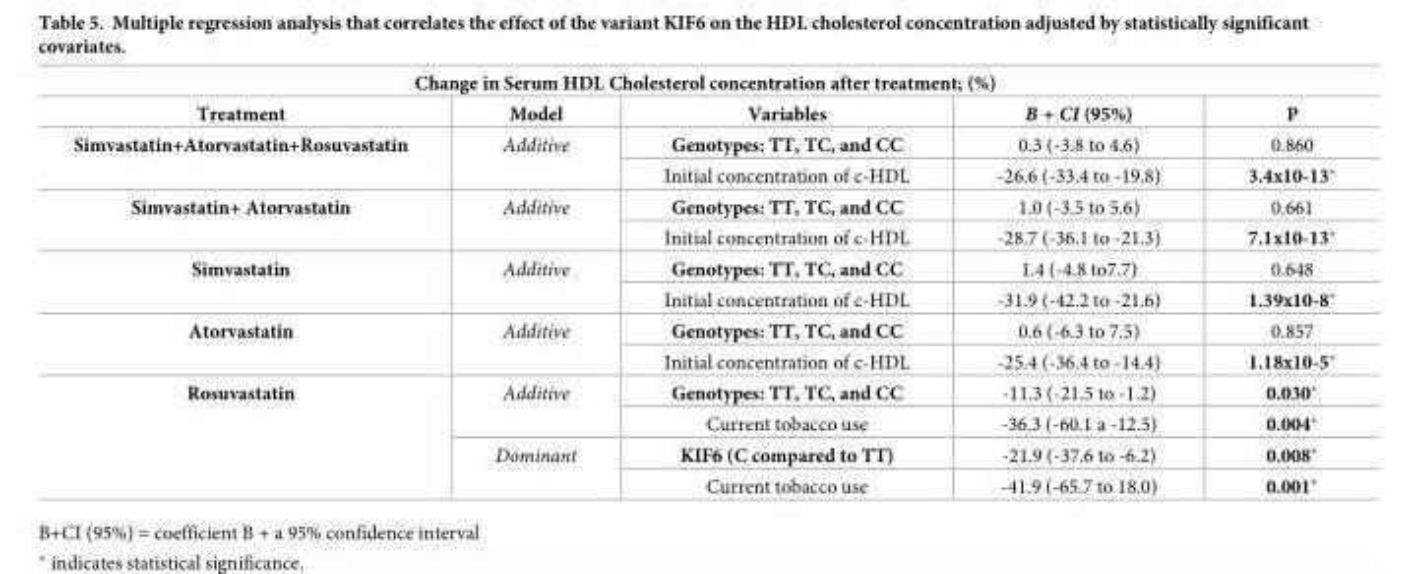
<table><thead><tr><td colspan="5">Change in Serum HDL Cholesterol concentration after treatment; (%)</td></tr><tr><td>Treatment</td><td>Model</td><td>Variables</td><td>B + CI (95%)</td><td>P</td></tr></thead><tbody><tr><td rowspan="2">Simvastatin+Atorvastatin+Rosuvastatin</td><td rowspan="2">Additive</td><td>Genotypes: TT, TC, and CC</td><td>0.3 (-3.8 to 4.6)</td><td>0.860</td></tr><tr><td>Initial concentration of c-HDL</td><td>-26.6 (-33.4 to -19.8)</td><td>3.4x10-13*</td></tr><tr><td rowspan="2">Simvastatin+ Atorvastatin</td><td rowspan="2">Additive</td><td>Genotypes: TT, TC, and CC</td><td>1.0 (-3.5 to 5.6)</td><td>0.661</td></tr><tr><td>Initial concentration of c-HDL</td><td>-28.7 (-36.1 to -21.3)</td><td>7.1x10-13*</td></tr><tr><td rowspan="2">Simvastatin</td><td rowspan="2">Additive</td><td>Genotypes: TT, TC, and CC</td><td>1.4 (-4.8 to7.7)</td><td>0.648</td></tr><tr><td>Initial concentration of c-HDL</td><td>-31.9 (-42.2 to -21.6)</td><td>1.39x10-8*</td></tr><tr><td rowspan="2">Atorvastatin</td><td rowspan="2">Additive</td><td>Genotypes: TT, TC, and CC</td><td>0.6 (-6.3 to 7.5)</td><td>0.857</td></tr><tr><td>Initial concentration of c-HDL</td><td>-25.4 (-36.4 to -14.4)</td><td>1.18x10-5*</td></tr><tr><td rowspan="4">Rosuvastatin</td><td rowspan="2">Additive</td><td>Genotypes: TT, TC, and CC</td><td>-11.3 (-21.5 to -1.2)</td><td>0.030*</td></tr><tr><td>Current tobacco use</td><td>-36.3 (-60.1 a -12.5)</td><td>0.004*</td></tr><tr><td rowspan="2">Dominant</td><td>KIF6 (C compared to TT)</td><td>-21.9 (-37.6 to -6.2)</td><td>0.008*</td></tr><tr><td>Current tobacco use</td><td>-41.9 (-65.7 to 18.0)</td><td>0.001*</td></tr></tbody></table>